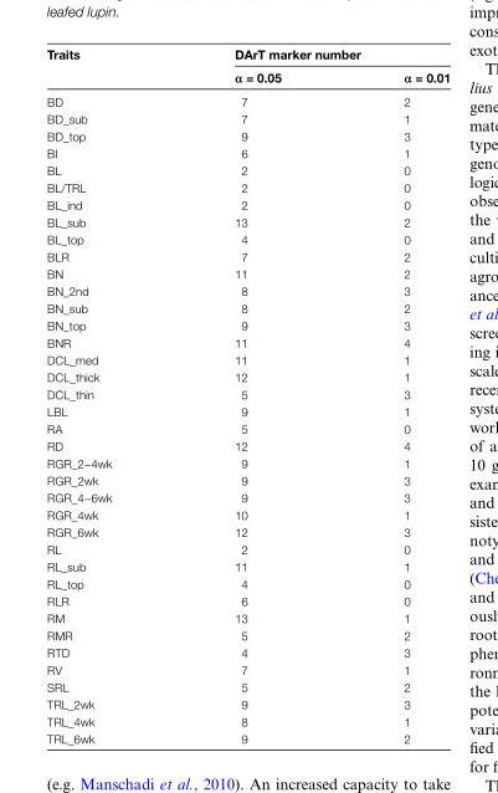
<table><thead><tr><td rowspan="2">Traits</td><td colspan="2">DArT marker number</td></tr><tr><td>α = 0.05</td><td>α = 0.01</td></tr></thead><tbody><tr><td>BD</td><td>7</td><td>2</td></tr><tr><td>BD_sub</td><td>7</td><td>1</td></tr><tr><td>BD_top</td><td>9</td><td>3</td></tr><tr><td>BI</td><td>6</td><td>1</td></tr><tr><td>BL</td><td>2</td><td>0</td></tr><tr><td>BL/TRL</td><td>2</td><td>0</td></tr><tr><td>BL_ind</td><td>2</td><td>0</td></tr><tr><td>BL_sub</td><td>13</td><td>2</td></tr><tr><td>BL_top</td><td>4</td><td>0</td></tr><tr><td>BLR</td><td>7</td><td>2</td></tr><tr><td>BN</td><td>11</td><td>2</td></tr><tr><td>BN_2nd</td><td>8</td><td>3</td></tr><tr><td>BN_sub</td><td>8</td><td>2</td></tr><tr><td>BN_top</td><td>9</td><td>3</td></tr><tr><td>BNR</td><td>11</td><td>4</td></tr><tr><td>DCL_med</td><td>11</td><td>1</td></tr><tr><td>DCL_thick</td><td>12</td><td>1</td></tr><tr><td>DCL_thin</td><td>5</td><td>3</td></tr><tr><td>LBL</td><td>9</td><td>1</td></tr><tr><td>RA</td><td>5</td><td>0</td></tr><tr><td>RD</td><td>12</td><td>4</td></tr><tr><td>RGR_2−4wk</td><td>9</td><td>1</td></tr><tr><td>RGR_2wk</td><td>9</td><td>3</td></tr><tr><td>RGR_4−6wk</td><td>9</td><td>3</td></tr><tr><td>RGR_4wk</td><td>10</td><td>1</td></tr><tr><td>RGR_6wk</td><td>12</td><td>3</td></tr><tr><td>RL</td><td>2</td><td>0</td></tr><tr><td>RL_sub</td><td>11</td><td>1</td></tr><tr><td>RL_top</td><td>4</td><td>0</td></tr><tr><td>RLR</td><td>6</td><td>0</td></tr><tr><td>RM</td><td>13</td><td>1</td></tr><tr><td>RMR</td><td>5</td><td>2</td></tr><tr><td>RTD</td><td>4</td><td>3</td></tr><tr><td>RV</td><td>7</td><td>1</td></tr><tr><td>SRL</td><td>5</td><td>2</td></tr><tr><td>TRL_2wk</td><td>9</td><td>3</td></tr><tr><td>TRL_4wk</td><td>8</td><td>1</td></tr><tr><td>TRL_6wk</td><td>9</td><td>2</td></tr></tbody></table>